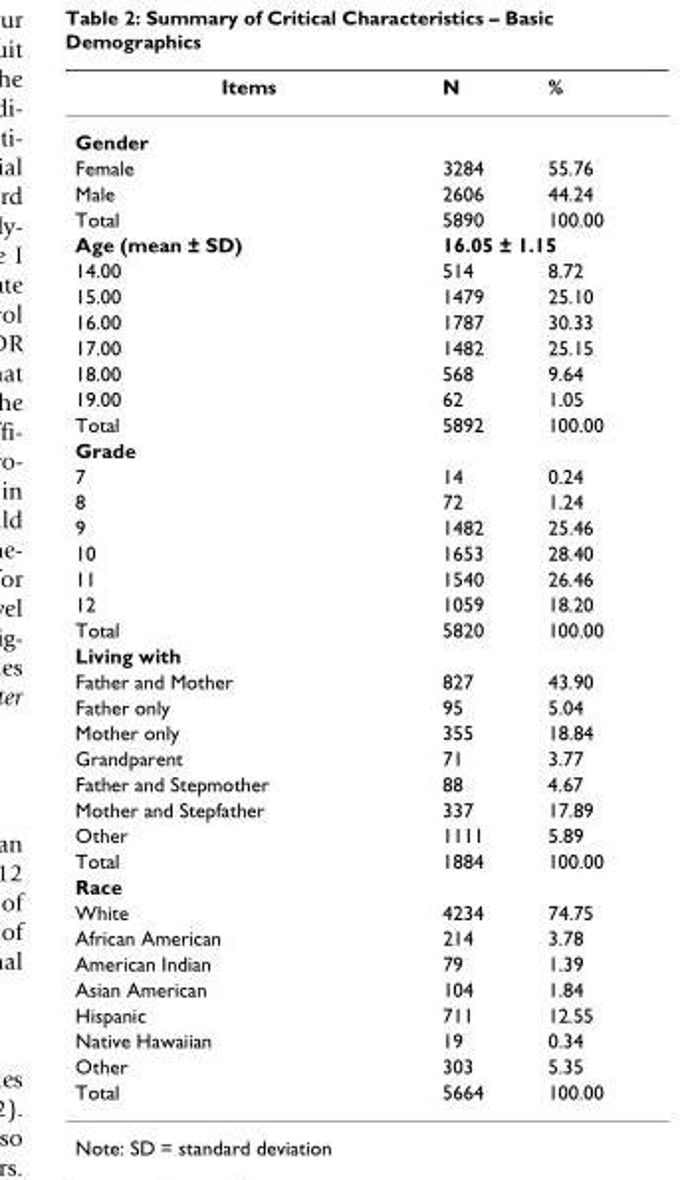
<table><thead><tr><td>Items</td><td>N</td><td>%</td></tr></thead><tbody><tr><td colspan="3">Gender</td></tr><tr><td>Female</td><td>3284</td><td>55.76</td></tr><tr><td>Male</td><td>2606</td><td>44.24</td></tr><tr><td>Total</td><td>5890</td><td>100.00</td></tr><tr><td>Age (mean ± SD)</td><td colspan="2">16.05 ± 1.15</td></tr><tr><td>14.00</td><td>514</td><td>8.72</td></tr><tr><td>15.00</td><td>1479</td><td>25.10</td></tr><tr><td>16.00</td><td>1787</td><td>30.33</td></tr><tr><td>17.00</td><td>1482</td><td>25.15</td></tr><tr><td>18.00</td><td>568</td><td>9.64</td></tr><tr><td>19.00</td><td>62</td><td>1.05</td></tr><tr><td>Total</td><td>5892</td><td>100.00</td></tr><tr><td colspan="3">Grade</td></tr><tr><td>7</td><td>14</td><td>0.24</td></tr><tr><td>8</td><td>72</td><td>1.24</td></tr><tr><td>9</td><td>1482</td><td>25.46</td></tr><tr><td>10</td><td>1653</td><td>28.40</td></tr><tr><td>11</td><td>1540</td><td>26.46</td></tr><tr><td>12</td><td>1059</td><td>18.20</td></tr><tr><td>Total</td><td>5820</td><td>100.00</td></tr><tr><td colspan="3">Living with</td></tr><tr><td>Father and Mother</td><td>827</td><td>43.90</td></tr><tr><td>Father only</td><td>95</td><td>5.04</td></tr><tr><td>Mother only</td><td>355</td><td>18.84</td></tr><tr><td>Grandparent</td><td>71</td><td>3.77</td></tr><tr><td>Father and Stepmother</td><td>88</td><td>4.67</td></tr><tr><td>Mother and Stepfather</td><td>337</td><td>17.89</td></tr><tr><td>Other</td><td>1111</td><td>5.89</td></tr><tr><td>Total</td><td>1884</td><td>100.00</td></tr><tr><td colspan="3">Race</td></tr><tr><td>White</td><td>4234</td><td>74.75</td></tr><tr><td>African American</td><td>214</td><td>3.78</td></tr><tr><td>American Indian</td><td>79</td><td>1.39</td></tr><tr><td>Asian American</td><td>104</td><td>1.84</td></tr><tr><td>Hispanic</td><td>711</td><td>12.55</td></tr><tr><td>Native Hawaiian</td><td>19</td><td>0.34</td></tr><tr><td>Other</td><td>303</td><td>5.35</td></tr><tr><td>Total</td><td>5664</td><td>100.00</td></tr></tbody></table>